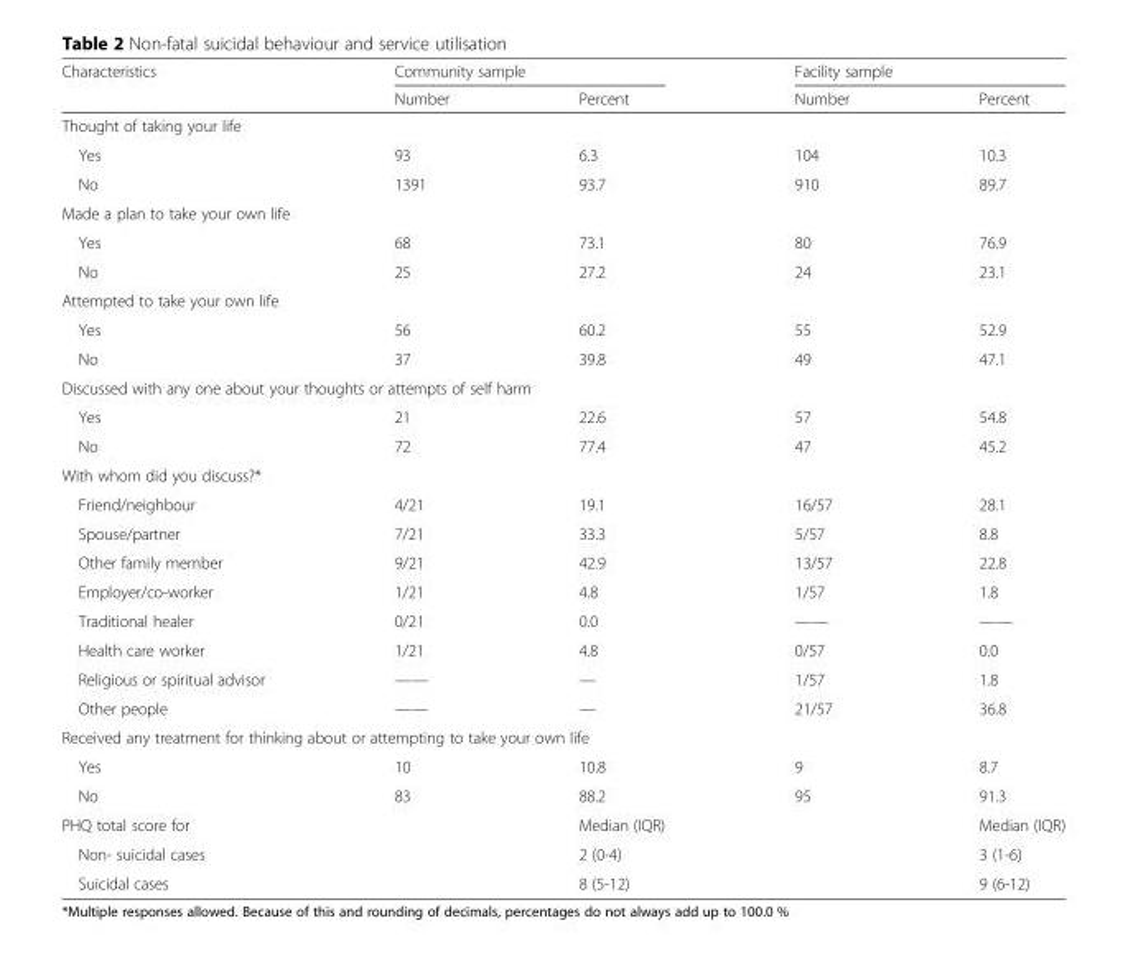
<table><thead><tr><td rowspan="2">Characteristics</td><td colspan="2">Community sample</td><td colspan="2">Facility sample</td></tr><tr><td>Number</td><td>Percent</td><td>Number</td><td>Percent</td></tr></thead><tbody><tr><td colspan="5">Thought of taking your life</td></tr><tr><td>Yes</td><td>93</td><td>6.3</td><td>104</td><td>10.3</td></tr><tr><td>No</td><td>1391</td><td>93.7</td><td>910</td><td>89.7</td></tr><tr><td colspan="5">Made a plan to take your own life</td></tr><tr><td>Yes</td><td>68</td><td>73.1</td><td>80</td><td>76.9</td></tr><tr><td>No</td><td>25</td><td>27.2</td><td>24</td><td>23.1</td></tr><tr><td colspan="5">Attempted to take your own life</td></tr><tr><td>Yes</td><td>56</td><td>60.2</td><td>55</td><td>52.9</td></tr><tr><td>No</td><td>37</td><td>39.8</td><td>49</td><td>47.1</td></tr><tr><td colspan="5">Discussed with any one about your thoughts or attempts of self harm</td></tr><tr><td>Yes</td><td>21</td><td>22.6</td><td>57</td><td>54.8</td></tr><tr><td>No</td><td>72</td><td>77.4</td><td>47</td><td>45.2</td></tr><tr><td colspan="5">With whom did you discuss?*</td></tr><tr><td>Friend/neighbour</td><td>4/21</td><td>19.1</td><td>16/57</td><td>28.1</td></tr><tr><td>Spouse/partner</td><td>7/21</td><td>33.3</td><td>5/57</td><td>8.8</td></tr><tr><td>Other family member</td><td>9/21</td><td>42.9</td><td>13/57</td><td>22.8</td></tr><tr><td>Employer/co-worker</td><td>1/21</td><td>4.8</td><td>1/57</td><td>1.8</td></tr><tr><td>Traditional healer</td><td>0/21</td><td>0.0</td><td>——</td><td>——</td></tr><tr><td>Health care worker</td><td>1/21</td><td>4.8</td><td>0/57</td><td>0.0</td></tr><tr><td>Religious or spiritual advisor</td><td>——</td><td>—</td><td>1/57</td><td>1.8</td></tr><tr><td>Other people</td><td>——</td><td>—</td><td>21/57</td><td>36.8</td></tr><tr><td colspan="5">Received any treatment for thinking about or attempting to take your own life</td></tr><tr><td>Yes</td><td>10</td><td>10.8</td><td>9</td><td>8.7</td></tr><tr><td>No</td><td>83</td><td>88.2</td><td>95</td><td>91.3</td></tr><tr><td>PHQ total score for</td><td></td><td>Median (IQR)</td><td></td><td>Median (IQR)</td></tr><tr><td>Non- suicidal cases</td><td></td><td>2 (0-4)</td><td></td><td>3 (1-6)</td></tr><tr><td>Suicidal cases</td><td></td><td>8 (5-12)</td><td></td><td>9 (6-12)</td></tr></tbody></table>